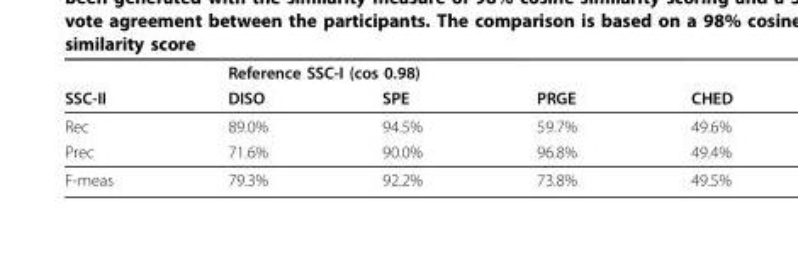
<table><thead><tr><td rowspan="2">SSC-II</td><td colspan="4">Reference SSC-I (cos 0.98)</td></tr><tr><td>DISO</td><td>SPE</td><td>PRGE</td><td>CHED</td></tr></thead><tbody><tr><td>Rec</td><td>89.0%</td><td>94.5%</td><td>59.7%</td><td>49.6%</td></tr><tr><td>Prec</td><td>71.6%</td><td>90.0%</td><td>96.8%</td><td>49.4%</td></tr><tr><td>F-meas</td><td>79.3%</td><td>92.2%</td><td>73.8%</td><td>49.5%</td></tr></tbody></table>